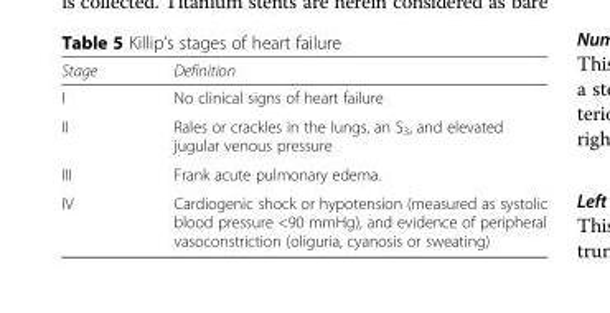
<table><thead><tr><td>Stage</td><td>Definition</td></tr></thead><tbody><tr><td>I</td><td>No clinical signs of heart failure</td></tr><tr><td>II</td><td>Rales or crackles in the lungs, an S<sub>3</sub>, and elevated jugular venous pressure</td></tr><tr><td>III</td><td>Frank acute pulmonary edema.</td></tr><tr><td>IV</td><td>Cardiogenic shock or hypotension (measured as systolic blood pressure &lt;90 mmHg), and evidence of peripheral vasoconstriction (oliguria, cyanosis or sweating)</td></tr></tbody></table>